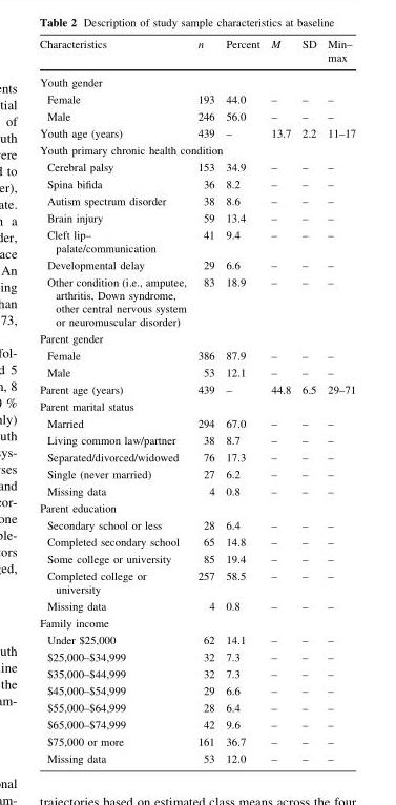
<table><thead><tr><td>Characteristics</td><td>n</td><td>Percent</td><td>M</td><td>SD</td><td>Min– max</td></tr></thead><tbody><tr><td colspan="6">Youth gender</td></tr><tr><td>Female</td><td>193</td><td>44.0</td><td>–</td><td>–</td><td>–</td></tr><tr><td>Male</td><td>246</td><td>56.0</td><td>–</td><td>–</td><td>–</td></tr><tr><td>Youth age (years)</td><td>439</td><td>–</td><td>13.7</td><td>2.2</td><td>11–17</td></tr><tr><td colspan="6">Youth primary chronic health condition</td></tr><tr><td>Cerebral palsy</td><td>153</td><td>34.9</td><td>–</td><td>–</td><td>–</td></tr><tr><td>Spina bifida</td><td>36</td><td>8.2</td><td>–</td><td>–</td><td>–</td></tr><tr><td>Autism spectrum disorder</td><td>38</td><td>8.6</td><td>–</td><td>–</td><td>–</td></tr><tr><td>Brain injury</td><td>59</td><td>13.4</td><td>–</td><td>–</td><td>–</td></tr><tr><td>Cleft lip– palate/communication</td><td>41</td><td>9.4</td><td>–</td><td>–</td><td>–</td></tr><tr><td>Developmental delay</td><td>29</td><td>6.6</td><td>–</td><td>–</td><td>–</td></tr><tr><td>Other condition (i.e., amputee, arthritis, Down syndrome, other central nervous system or neuromuscular disorder)</td><td>83</td><td>18.9</td><td>–</td><td>–</td><td>–</td></tr><tr><td colspan="6">Parent gender</td></tr><tr><td>Female</td><td>386</td><td>87.9</td><td>–</td><td>–</td><td>–</td></tr><tr><td>Male</td><td>53</td><td>12.1</td><td>–</td><td>–</td><td>–</td></tr><tr><td>Parent age (years)</td><td>439</td><td>–</td><td>44.8</td><td>6.5</td><td>29–71</td></tr><tr><td colspan="6">Parent marital status</td></tr><tr><td>Married</td><td>294</td><td>67.0</td><td>–</td><td>–</td><td>–</td></tr><tr><td>Living common law/partner</td><td>38</td><td>8.7</td><td>–</td><td>–</td><td>–</td></tr><tr><td>Separated/divorced/widowed</td><td>76</td><td>17.3</td><td>–</td><td>–</td><td>–</td></tr><tr><td>Single (never married)</td><td>27</td><td>6.2</td><td>–</td><td>–</td><td>–</td></tr><tr><td>Missing data</td><td>4</td><td>0.8</td><td>–</td><td>–</td><td>–</td></tr><tr><td colspan="6">Parent education</td></tr><tr><td>Secondary school or less</td><td>28</td><td>6.4</td><td>–</td><td>–</td><td>–</td></tr><tr><td>Completed secondary school</td><td>65</td><td>14.8</td><td>–</td><td>–</td><td>–</td></tr><tr><td>Some college or university</td><td>85</td><td>19.4</td><td>–</td><td>–</td><td>–</td></tr><tr><td>Completed college or university</td><td>257</td><td>58.5</td><td>–</td><td>–</td><td>–</td></tr><tr><td>Missing data</td><td>4</td><td>0.8</td><td>–</td><td>–</td><td>–</td></tr><tr><td colspan="6">Family income</td></tr><tr><td>Under $25,000</td><td>62</td><td>14.1</td><td>–</td><td>–</td><td>–</td></tr><tr><td>$25,000–$34,999</td><td>32</td><td>7.3</td><td>–</td><td>–</td><td>–</td></tr><tr><td>$35,000–$44,999</td><td>32</td><td>7.3</td><td>–</td><td>–</td><td>–</td></tr><tr><td>$45,000–$54,999</td><td>29</td><td>6.6</td><td>–</td><td>–</td><td>–</td></tr><tr><td>$55,000–$64,999</td><td>28</td><td>6.4</td><td>–</td><td>–</td><td>–</td></tr><tr><td>$65,000–$74,999</td><td>42</td><td>9.6</td><td>–</td><td>–</td><td>–</td></tr><tr><td>$75,000 or more</td><td>161</td><td>36.7</td><td>–</td><td>–</td><td>–</td></tr><tr><td>Missing data</td><td>53</td><td>12.0</td><td>–</td><td>–</td><td>–</td></tr></tbody></table>